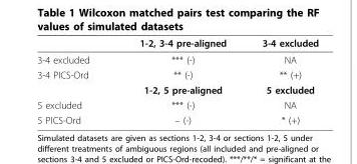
<table><thead><tr><td></td><td>1-2, 3-4 pre-aligned</td><td>3-4 excluded</td></tr></thead><tbody><tr><td>3-4 excluded</td><td>*** (-)</td><td>NA</td></tr><tr><td rowspan="2">3-4 PICS-Ord</td><td>** (-)</td><td>** (+)</td></tr><tr><td>1-2, 5 pre-aligned</td><td>5 excluded</td></tr><tr><td>5 excluded</td><td>*** (-)</td><td>NA</td></tr><tr><td>5 PICS-Ord</td><td>– (-)</td><td>* (+)</td></tr></tbody></table>